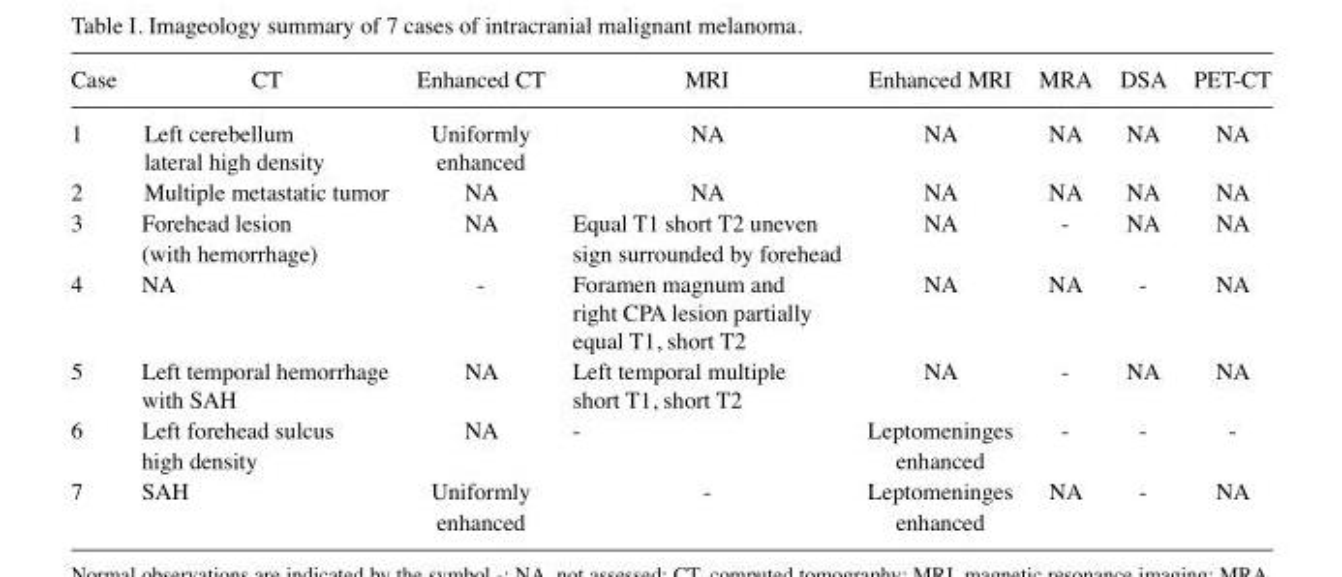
<table><thead><tr><td>Case</td><td>CT</td><td>Enhanced CT</td><td>MRI</td><td>Enhanced MRI</td><td>MRA</td><td>DSA</td><td>PET-CT</td></tr></thead><tbody><tr><td>1</td><td>Left cerebellum lateral high density</td><td>Uniformly enhanced</td><td>NA</td><td>NA</td><td>NA</td><td>NA</td><td>NA</td></tr><tr><td>2</td><td>Multiple metastatic tumor</td><td>NA</td><td>NA</td><td>NA</td><td>NA</td><td>NA</td><td>NA</td></tr><tr><td>3</td><td>Forehead lesion (with hemorrhage)</td><td>NA</td><td>Equal T1 short T2 uneven sign surrounded by forehead</td><td>NA</td><td>-</td><td>NA</td><td>NA</td></tr><tr><td>4</td><td>NA</td><td>-</td><td>Foramen magnum and right CPA lesion partially equal T1, short T2</td><td>NA</td><td>NA</td><td>-</td><td>NA</td></tr><tr><td>5</td><td>Left temporal hemorrhage with SAH</td><td>NA</td><td>Left temporal multiple short T1, short T2</td><td>NA</td><td>-</td><td>NA</td><td>NA</td></tr><tr><td>6</td><td>Left forehead sulcus high density</td><td>NA</td><td>-</td><td>Leptomeninges enhanced</td><td>-</td><td>-</td><td>-</td></tr><tr><td>7</td><td>SAH</td><td>Uniformly</td><td>-</td><td>Leptomeninges</td><td>NA</td><td>-</td><td>NA</td></tr></tbody></table>